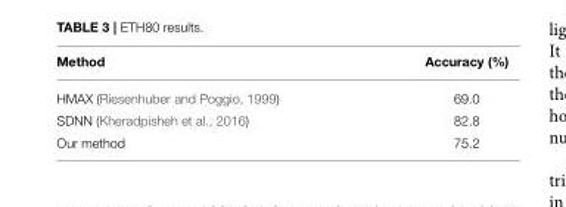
<table><thead><tr><td>Method</td><td>Accuracy (%)</td></tr></thead><tbody><tr><td>HMAX (Riesenhuber and Poggio, 1999)</td><td>69.0</td></tr><tr><td>SDNN (Kheradpisheh et al., 2016)</td><td>82.8</td></tr><tr><td>Our method</td><td>75.2</td></tr></tbody></table>